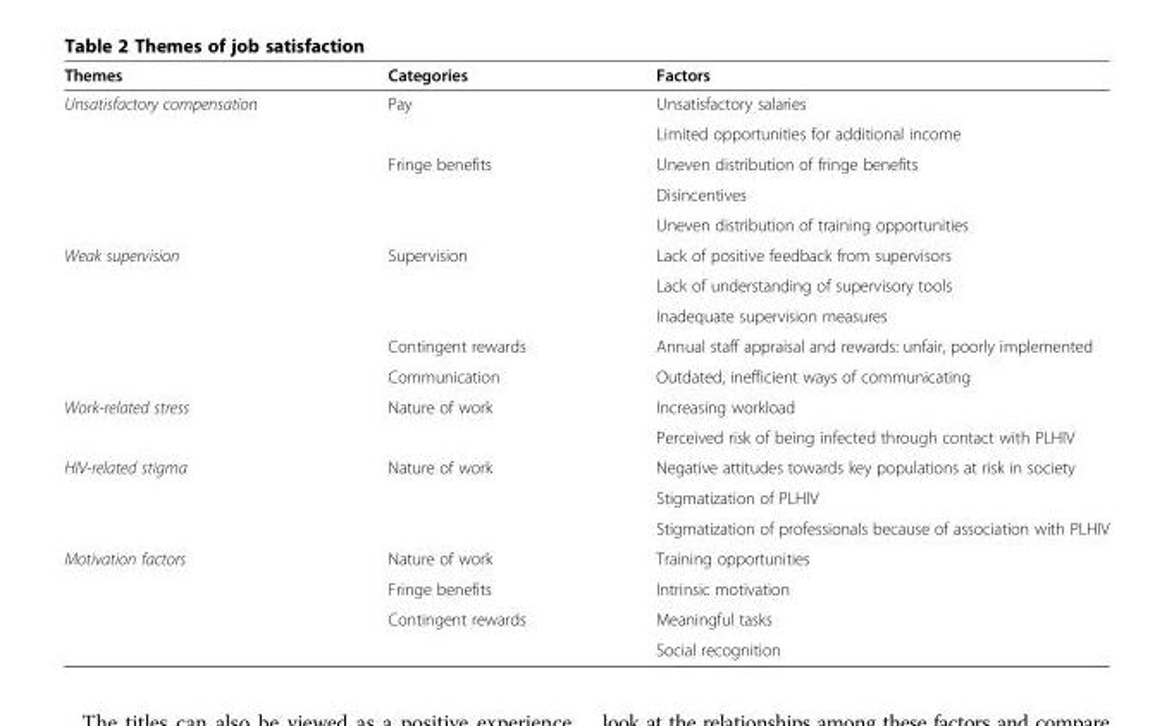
<table><thead><tr><td>Themes</td><td>Categories</td><td>Factors</td></tr></thead><tbody><tr><td rowspan="5">Unsatisfactory compensation</td><td rowspan="2">Pay</td><td>Unsatisfactory salaries</td></tr><tr><td>Limited opportunities for additional income</td></tr><tr><td rowspan="3">Fringe benefits</td><td>Uneven distribution of fringe benefits</td></tr><tr><td>Disincentives</td></tr><tr><td>Uneven distribution of training opportunities</td></tr><tr><td rowspan="5">Weak supervision</td><td rowspan="3">Supervision</td><td>Lack of positive feedback from supervisors</td></tr><tr><td>Lack of understanding of supervisory tools</td></tr><tr><td>Inadequate supervision measures</td></tr><tr><td>Contingent rewards</td><td>Annual staff appraisal and rewards: unfair, poorly implemented</td></tr><tr><td>Communication</td><td>Outdated, inefficient ways of communicating</td></tr><tr><td rowspan="2">Work-related stress</td><td rowspan="2">Nature of work</td><td>Increasing workload</td></tr><tr><td>Perceived risk of being infected through contact with PLHIV</td></tr><tr><td rowspan="3">HIV-related stigma</td><td rowspan="3">Nature of work</td><td>Negative attitudes towards key populations at risk in society</td></tr><tr><td>Stigmatization of PLHIV</td></tr><tr><td>Stigmatization of professionals because of association with PLHIV</td></tr><tr><td rowspan="4">Motivation factors</td><td>Nature of work</td><td>Training opportunities</td></tr><tr><td>Fringe benefits</td><td>Intrinsic motivation</td></tr><tr><td rowspan="2">Contingent rewards</td><td>Meaningful tasks</td></tr><tr><td>Social recognition</td></tr></tbody></table>